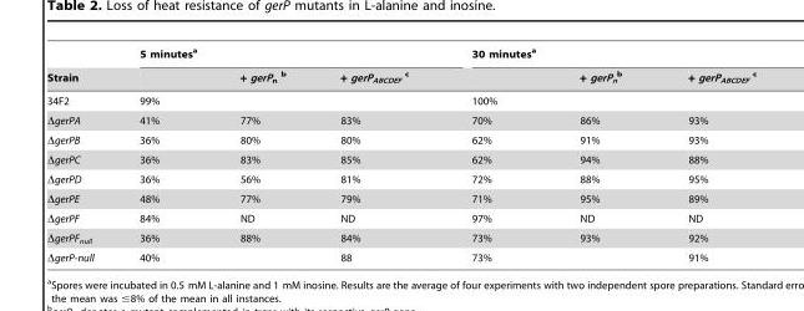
<table><thead><tr><td rowspan="2">Strain</td><td colspan="3">5 minutes<sup>a</sup></td><td colspan="3">30 minutes<sup>a</sup></td></tr><tr><td></td><td>+ gerPn b</td><td>+ gerP<sub>ABCDEF</sub> c</td><td></td><td>+ gerP<sub>n</sub> b</td><td>+ gerP<sub>ABCDEF</sub> c</td></tr></thead><tbody><tr><td>34F2</td><td>99%</td><td></td><td></td><td>100%</td><td></td><td></td></tr><tr><td>ΔgerPA</td><td>41%</td><td>77%</td><td>83%</td><td>70%</td><td>86%</td><td>93%</td></tr><tr><td>ΔgerPB</td><td>36%</td><td>80%</td><td>80%</td><td>62%</td><td>91%</td><td>93%</td></tr><tr><td>ΔgerPC</td><td>36%</td><td>83%</td><td>85%</td><td>62%</td><td>94%</td><td>88%</td></tr><tr><td>ΔgerPD</td><td>36%</td><td>56%</td><td>81%</td><td>72%</td><td>88%</td><td>95%</td></tr><tr><td>ΔgerPE</td><td>48%</td><td>77%</td><td>79%</td><td>71%</td><td>95%</td><td>89%</td></tr><tr><td>ΔgerPF</td><td>84%</td><td>ND</td><td>ND</td><td>97%</td><td>ND</td><td>ND</td></tr><tr><td>ΔgerPF<sub>null</sub></td><td>36%</td><td>88%</td><td>84%</td><td>73%</td><td>93%</td><td>92%</td></tr><tr><td>ΔgerP-null</td><td>40%</td><td></td><td>88</td><td>73%</td><td></td><td>91%</td></tr></tbody></table>